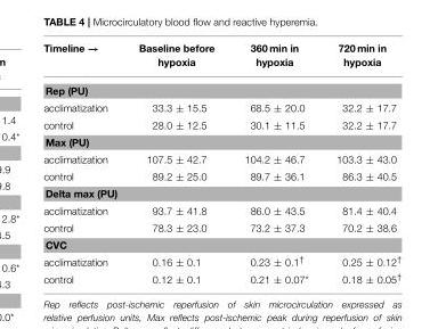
<table><thead><tr><td>Timeline →</td><td>Baseline before hypoxia</td><td>360 min in hypoxia</td><td>720 min in hypoxia</td></tr></thead><tbody><tr><td colspan="4">Rep (PU)</td></tr><tr><td>acclimatization</td><td>33.3 ± 15.5</td><td>68.5 ± 20.0</td><td>32.2 ± 17.7</td></tr><tr><td>control</td><td>28.0 ± 12.5</td><td>30.1 ± 11.5</td><td>32.2 ± 17.7</td></tr><tr><td colspan="4">Max (PU)</td></tr><tr><td>acclimatization</td><td>107.5 ± 42.7</td><td>104.2 ± 46.7</td><td>103.3 ± 43.0</td></tr><tr><td>control</td><td>89.2 ± 25.0</td><td>89.7 ± 36.1</td><td>86.3 ± 40.5</td></tr><tr><td colspan="4">Delta max (PU)</td></tr><tr><td>acclimatization</td><td>93.7 ± 41.8</td><td>86.0 ± 43.5</td><td>81.4 ± 40.4</td></tr><tr><td>control</td><td>78.3 ± 23.0</td><td>73.2 ± 37.3</td><td>70.2 ± 38.6</td></tr><tr><td colspan="4">CVC</td></tr><tr><td>acclimatization</td><td>0.16 ± 0.1</td><td>0.23 ± 0.1<sup>†</sup></td><td>0.25 ± 0.12<sup>†</sup></td></tr><tr><td>control</td><td>0.12 ± 0.1</td><td>0.21 ± 0.07*</td><td>0.18 ± 0.05<sup>†</sup></td></tr></tbody></table>